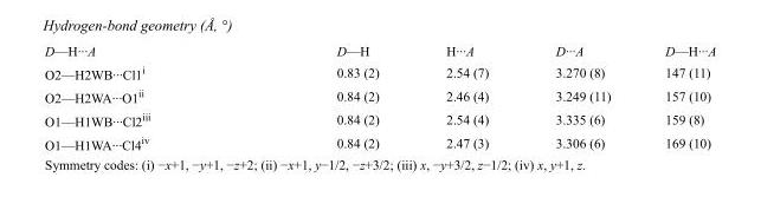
<table><tbody><tr><td>D—H···A</td><td>D—H</td><td>H···A</td><td>D···A</td><td>D—H···A</td></tr><tr><td>O2—H2WB···Cl1<sup>i</sup></td><td>0.83 (2)</td><td>2.54 (7)</td><td>3.270 (8)</td><td>147 (11)</td></tr><tr><td>O2—H2WA···O1<sup>ii</sup></td><td>0.84 (2)</td><td>2.46 (4)</td><td>3.249 (11)</td><td>157 (10)</td></tr><tr><td>O1—H1WB···Cl2<sup>iii</sup></td><td>0.84 (2)</td><td>2.54 (4)</td><td>3.335 (6)</td><td>159 (8)</td></tr><tr><td>O1—H1WA···Cl4<sup>iv</sup></td><td>0.84 (2)</td><td>2.47 (3)</td><td>3.306 (6)</td><td>169 (10)</td></tr></tbody></table>